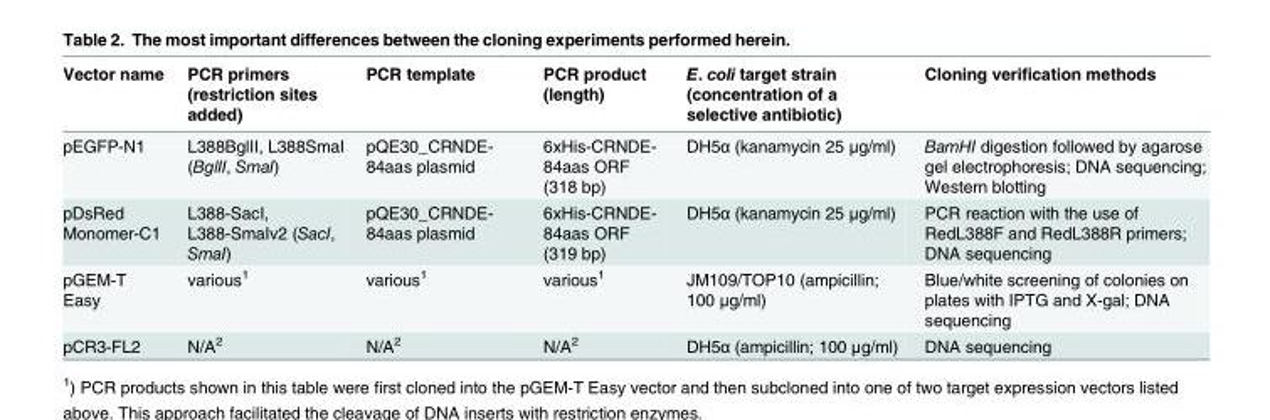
<table><thead><tr><td>Vector name</td><td>PCR primers (restriction sites added)</td><td>PCR template</td><td>PCR product (length)</td><td>E. coli target strain (concentration of a selective antibiotic)</td><td>Cloning verification methods</td></tr></thead><tbody><tr><td>pEGFP-N1</td><td>L388BglII, L388SmaI (BglII, SmaI)</td><td>pQE30_CRNDE- 84aas plasmid</td><td>6xHis-CRNDE- 84aas ORF (318 bp)</td><td>DH5α (kanamycin 25 μg/ml)</td><td>BamHI digestion followed by agarose gel electrophoresis; DNA sequencing; Western blotting</td></tr><tr><td>pDsRed Monomer-C1</td><td>L388-SacI, L388-SmaIv2 (SacI, SmaI)</td><td>pQE30_CRNDE- 84aas plasmid</td><td>6xHis-CRNDE- 84aas ORF (319 bp)</td><td>DH5α (kanamycin 25 μg/ml)</td><td>PCR reaction with the use of RedL388F and RedL388R primers; DNA sequencing</td></tr><tr><td>pGEM-T Easy</td><td>various<sup>1</sup></td><td>various<sup>1</sup></td><td>various<sup>1</sup></td><td>JM109/TOP10 (ampicillin; 100 μg/ml)</td><td>Blue/white screening of colonies on plates with IPTG and X-gal; DNA sequencing</td></tr><tr><td>pCR3-FL2</td><td>N/A<sup>2</sup></td><td>N/A<sup>2</sup></td><td>N/A<sup>2</sup></td><td>DH5α (ampicillin; 100 μg/ml)</td><td>DNA sequencing</td></tr></tbody></table>